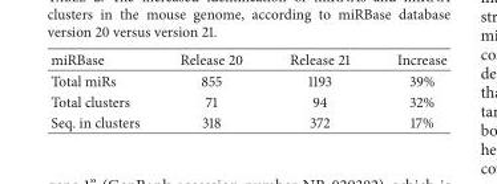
<table><thead><tr><td>miRBase</td><td>Release 20</td><td>Release 21</td><td>Increase</td></tr></thead><tbody><tr><td>Total miRs</td><td>855</td><td>1193</td><td>39%</td></tr><tr><td>Total clusters</td><td>71</td><td>94</td><td>32%</td></tr><tr><td>Seq. in clusters</td><td>318</td><td>372</td><td>17%</td></tr></tbody></table>